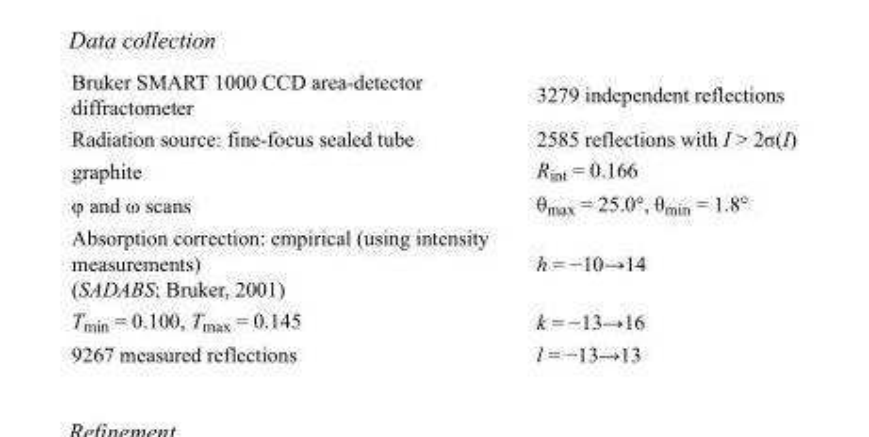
<table><tbody><tr><td>Bruker SMART 1000 CCD area-detector diffractometer</td><td>3279 independent reflections</td></tr><tr><td>Radiation source: fine-focus sealed tube</td><td>2585 reflections with I &gt; 2σ(I)</td></tr><tr><td>graphite</td><td>R<sub>int</sub> = 0.166</td></tr><tr><td>φ and ω scans</td><td>θ<sub>max</sub> = 25.0°, θ<sub>min</sub> = 1.8°</td></tr><tr><td>Absorption correction: empirical (using intensity measurements) (SADABS; Bruker, 2001)</td><td>h = −10→14</td></tr><tr><td>T<sub>min</sub> = 0.100, T<sub>max</sub> = 0.145</td><td>k = −13→16</td></tr><tr><td>9267 measured reflections</td><td>l = −13→13</td></tr></tbody></table>